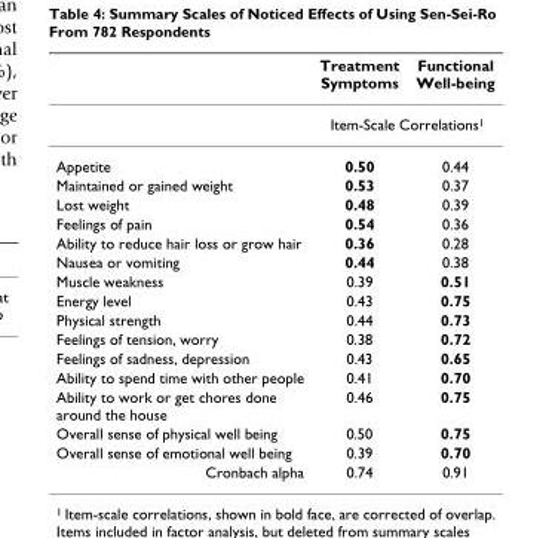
<table><thead><tr><td></td><td>Treatment Symptoms</td><td>Functional Well-being</td></tr></thead><tbody><tr><td></td><td colspan="2">Item-Scale Correlations<sup>1</sup></td></tr><tr><td>Appetite</td><td>0.50</td><td>0.44</td></tr><tr><td>Maintained or gained weight</td><td>0.53</td><td>0.37</td></tr><tr><td>Lost weight</td><td>0.48</td><td>0.39</td></tr><tr><td>Feelings of pain</td><td>0.54</td><td>0.36</td></tr><tr><td>Ability to reduce hair loss or grow hair</td><td>0.36</td><td>0.28</td></tr><tr><td>Nausea or vomiting</td><td>0.44</td><td>0.38</td></tr><tr><td>Muscle weakness</td><td>0.39</td><td>0.51</td></tr><tr><td>Energy level</td><td>0.43</td><td>0.75</td></tr><tr><td>Physical strength</td><td>0.44</td><td>0.73</td></tr><tr><td>Feelings of tension, worry</td><td>0.38</td><td>0.72</td></tr><tr><td>Feelings of sadness, depression</td><td>0.43</td><td>0.65</td></tr><tr><td>Ability to spend time with other people</td><td>0.41</td><td>0.70</td></tr><tr><td>Ability to work or get chores done around the house</td><td>0.46</td><td>0.75</td></tr><tr><td>Overall sense of physical well being</td><td>0.50</td><td>0.75</td></tr><tr><td>Overall sense of emotional well being</td><td>0.39</td><td>0.70</td></tr><tr><td>Cronbach alpha</td><td>0.74</td><td>0.91</td></tr></tbody></table>